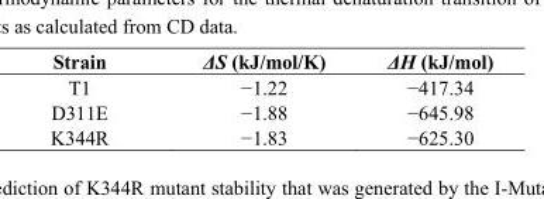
<table><thead><tr><td>Strain</td><td>ΔS (kJ/mol/K)</td><td>ΔH (kJ/mol)</td></tr></thead><tbody><tr><td>T1</td><td>−1.22</td><td>−417.34</td></tr><tr><td>D311E</td><td>−1.88</td><td>−645.98</td></tr><tr><td>K344R</td><td>−1.83</td><td>−625.30</td></tr></tbody></table>